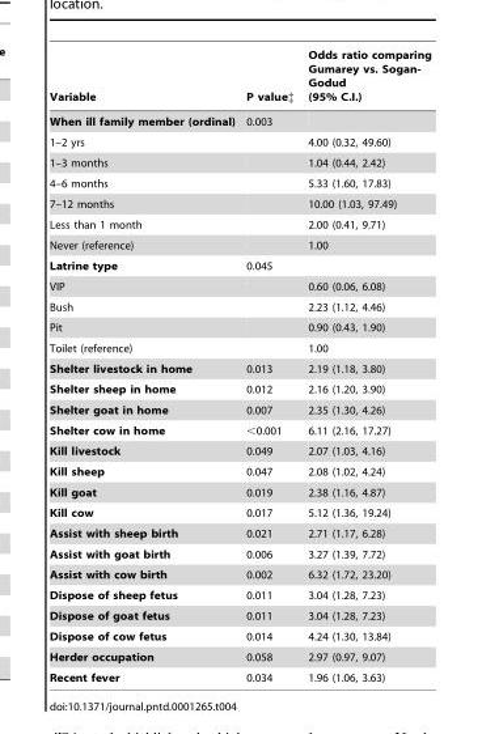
<table><thead><tr><td>Variable</td><td>P value‡</td><td>Odds ratio comparing Gumarey vs. Sogan- Godud (95% C.I.)</td></tr></thead><tbody><tr><td>When ill family member (ordinal)</td><td>0.003</td><td></td></tr><tr><td>1–2 yrs</td><td></td><td>4.00 (0.32, 49.60)</td></tr><tr><td>1–3 months</td><td></td><td>1.04 (0.44, 2.42)</td></tr><tr><td>4–6 months</td><td></td><td>5.33 (1.60, 17.83)</td></tr><tr><td>7–12 months</td><td></td><td>10.00 (1.03, 97.49)</td></tr><tr><td>Less than 1 month</td><td></td><td>2.00 (0.41, 9.71)</td></tr><tr><td>Never (reference)</td><td></td><td>1.00</td></tr><tr><td>Latrine type</td><td>0.045</td><td></td></tr><tr><td>VIP</td><td></td><td>0.60 (0.06, 6.08)</td></tr><tr><td>Bush</td><td></td><td>2.23 (1.12, 4.46)</td></tr><tr><td>Pit</td><td></td><td>0.90 (0.43, 1.90)</td></tr><tr><td>Toilet (reference)</td><td></td><td>1.00</td></tr><tr><td>Shelter livestock in home</td><td>0.013</td><td>2.19 (1.18, 3.80)</td></tr><tr><td>Shelter sheep in home</td><td>0.012</td><td>2.16 (1.20, 3.90)</td></tr><tr><td>Shelter goat in home</td><td>0.007</td><td>2.35 (1.30, 4.26)</td></tr><tr><td>Shelter cow in home</td><td>&lt;0.001</td><td>6.11 (2.16, 17.27)</td></tr><tr><td>Kill livestock</td><td>0.049</td><td>2.07 (1.03, 4.16)</td></tr><tr><td>Kill sheep</td><td>0.047</td><td>2.08 (1.02, 4.24)</td></tr><tr><td>Kill goat</td><td>0.019</td><td>2.38 (1.16, 4.87)</td></tr><tr><td>Kill cow</td><td>0.017</td><td>5.12 (1.36, 19.24)</td></tr><tr><td>Assist with sheep birth</td><td>0.021</td><td>2.71 (1.17, 6.28)</td></tr><tr><td>Assist with goat birth</td><td>0.006</td><td>3.27 (1.39, 7.72)</td></tr><tr><td>Assist with cow birth</td><td>0.002</td><td>6.32 (1.72, 23.20)</td></tr><tr><td>Dispose of sheep fetus</td><td>0.011</td><td>3.04 (1.28, 7.23)</td></tr><tr><td>Dispose of goat fetus</td><td>0.011</td><td>3.04 (1.28, 7.23)</td></tr><tr><td>Dispose of cow fetus</td><td>0.014</td><td>4.24 (1.30, 13.84)</td></tr><tr><td>Herder occupation</td><td>0.058</td><td>2.97 (0.97, 9.07)</td></tr><tr><td>Recent fever</td><td>0.034</td><td>1.96 (1.06, 3.63)</td></tr></tbody></table>